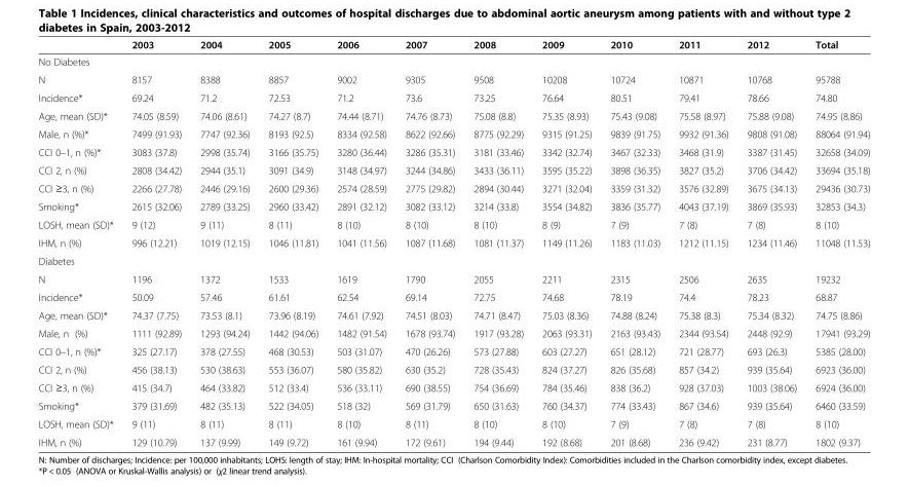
<table><thead><tr><td></td><td>2003</td><td>2004</td><td>2005</td><td>2006</td><td>2007</td><td>2008</td><td>2009</td><td>2010</td><td>2011</td><td>2012</td><td>Total</td></tr></thead><tbody><tr><td colspan="12">No Diabetes</td></tr><tr><td>N</td><td>8157</td><td>8388</td><td>8857</td><td>9002</td><td>9305</td><td>9508</td><td>10208</td><td>10724</td><td>10871</td><td>10768</td><td>95788</td></tr><tr><td>Incidence*</td><td>69.24</td><td>71.2</td><td>72.53</td><td>71.2</td><td>73.6</td><td>73.25</td><td>76.64</td><td>80.51</td><td>79.41</td><td>78.66</td><td>74.80</td></tr><tr><td>Age, mean (SD)*</td><td>74.05 (8.59)</td><td>74.06 (8.61)</td><td>74.27 (8.7)</td><td>74.44 (8.71)</td><td>74.76 (8.73)</td><td>75.08 (8.8)</td><td>75.35 (8.93)</td><td>75.43 (9.08)</td><td>75.58 (8.97)</td><td>75.88 (9.08)</td><td>74.95 (8.86)</td></tr><tr><td>Male, n (%)*</td><td>7499 (91.93)</td><td>7747 (92.36)</td><td>8193 (92.5)</td><td>8334 (92.58)</td><td>8622 (92.66)</td><td>8775 (92.29)</td><td>9315 (91.25)</td><td>9839 (91.75)</td><td>9932 (91.36)</td><td>9808 (91.08)</td><td>88064 (91.94)</td></tr><tr><td>CCI 0–1, n (%)*</td><td>3083 (37.8)</td><td>2998 (35.74)</td><td>3166 (35.75)</td><td>3280 (36.44)</td><td>3286 (35.31)</td><td>3181 (33.46)</td><td>3342 (32.74)</td><td>3467 (32.33)</td><td>3468 (31.9)</td><td>3387 (31.45)</td><td>32658 (34.09)</td></tr><tr><td>CCI 2, n (%)</td><td>2808 (34.42)</td><td>2944 (35.1)</td><td>3091 (34.9)</td><td>3148 (34.97)</td><td>3244 (34.86)</td><td>3433 (36.11)</td><td>3595 (35.22)</td><td>3898 (36.35)</td><td>3827 (35.2)</td><td>3706 (34.42)</td><td>33694 (35.18)</td></tr><tr><td>CCI ≥3, n (%)</td><td>2266 (27.78)</td><td>2446 (29.16)</td><td>2600 (29.36)</td><td>2574 (28.59)</td><td>2775 (29.82)</td><td>2894 (30.44)</td><td>3271 (32.04)</td><td>3359 (31.32)</td><td>3576 (32.89)</td><td>3675 (34.13)</td><td>29436 (30.73)</td></tr><tr><td>Smoking*</td><td>2615 (32.06)</td><td>2789 (33.25)</td><td>2960 (33.42)</td><td>2891 (32.12)</td><td>3082 (33.12)</td><td>3214 (33.8)</td><td>3554 (34.82)</td><td>3836 (35.77)</td><td>4043 (37.19)</td><td>3869 (35.93)</td><td>32853 (34.3)</td></tr><tr><td>LOSH, mean (SD)*</td><td>9 (12)</td><td>9 (11)</td><td>8 (11)</td><td>8 (10)</td><td>8 (10)</td><td>8 (10)</td><td>8 (9)</td><td>7 (9)</td><td>7 (8)</td><td>7 (8)</td><td>8 (10)</td></tr><tr><td>IHM, n (%)</td><td>996 (12.21)</td><td>1019 (12.15)</td><td>1046 (11.81)</td><td>1041 (11.56)</td><td>1087 (11.68)</td><td>1081 (11.37)</td><td>1149 (11.26)</td><td>1183 (11.03)</td><td>1212 (11.15)</td><td>1234 (11.46)</td><td>11048 (11.53)</td></tr><tr><td colspan="12">Diabetes</td></tr><tr><td>N</td><td>1196</td><td>1372</td><td>1533</td><td>1619</td><td>1790</td><td>2055</td><td>2211</td><td>2315</td><td>2506</td><td>2635</td><td>19232</td></tr><tr><td>Incidence*</td><td>50.09</td><td>57.46</td><td>61.61</td><td>62.54</td><td>69.14</td><td>72.75</td><td>74.68</td><td>78.19</td><td>74.4</td><td>78.23</td><td>68.87</td></tr><tr><td>Age, mean (SD)*</td><td>74.37 (7.75)</td><td>73.53 (8.1)</td><td>73.96 (8.19)</td><td>74.61 (7.92)</td><td>74.51 (8.03)</td><td>74.71 (8.47)</td><td>75.03 (8.36)</td><td>74.88 (8.24)</td><td>75.38 (8.3)</td><td>75.34 (8.32)</td><td>74.75 (8.86)</td></tr><tr><td>Male, n (%)</td><td>1111 (92.89)</td><td>1293 (94.24)</td><td>1442 (94.06)</td><td>1482 (91.54)</td><td>1678 (93.74)</td><td>1917 (93.28)</td><td>2063 (93.31)</td><td>2163 (93.43)</td><td>2344 (93.54)</td><td>2448 (92.9)</td><td>17941 (93.29)</td></tr><tr><td>CCI 0–1, n (%)*</td><td>325 (27.17)</td><td>378 (27.55)</td><td>468 (30.53)</td><td>503 (31.07)</td><td>470 (26.26)</td><td>573 (27.88)</td><td>603 (27.27)</td><td>651 (28.12)</td><td>721 (28.77)</td><td>693 (26.3)</td><td>5385 (28.00)</td></tr><tr><td>CCI 2, n (%)</td><td>456 (38.13)</td><td>530 (38.63)</td><td>553 (36.07)</td><td>580 (35.82)</td><td>630 (35.2)</td><td>728 (35.43)</td><td>824 (37.27)</td><td>826 (35.68)</td><td>857 (34.2)</td><td>939 (35.64)</td><td>6923 (36.00)</td></tr><tr><td>CCI ≥3, n (%)</td><td>415 (34.7)</td><td>464 (33.82)</td><td>512 (33.4)</td><td>536 (33.11)</td><td>690 (38.55)</td><td>754 (36.69)</td><td>784 (35.46)</td><td>838 (36.2)</td><td>928 (37.03)</td><td>1003 (38.06)</td><td>6924 (36.00)</td></tr><tr><td>Smoking*</td><td>379 (31.69)</td><td>482 (35.13)</td><td>522 (34.05)</td><td>518 (32)</td><td>569 (31.79)</td><td>650 (31.63)</td><td>760 (34.37)</td><td>774 (33.43)</td><td>867 (34.6)</td><td>939 (35.64)</td><td>6460 (33.59)</td></tr><tr><td>LOSH, mean (SD)*</td><td>9 (11)</td><td>8 (11)</td><td>8 (11)</td><td>8 (10)</td><td>8 (11)</td><td>8 (10)</td><td>8 (10)</td><td>7 (9)</td><td>7 (8)</td><td>7 (8)</td><td>8 (10)</td></tr><tr><td>IHM, n (%)</td><td>129 (10.79)</td><td>137 (9.99)</td><td>149 (9.72)</td><td>161 (9.94)</td><td>172 (9.61)</td><td>194 (9.44)</td><td>192 (8.68)</td><td>201 (8.68)</td><td>236 (9.42)</td><td>231 (8.77)</td><td>1802 (9.37)</td></tr></tbody></table>